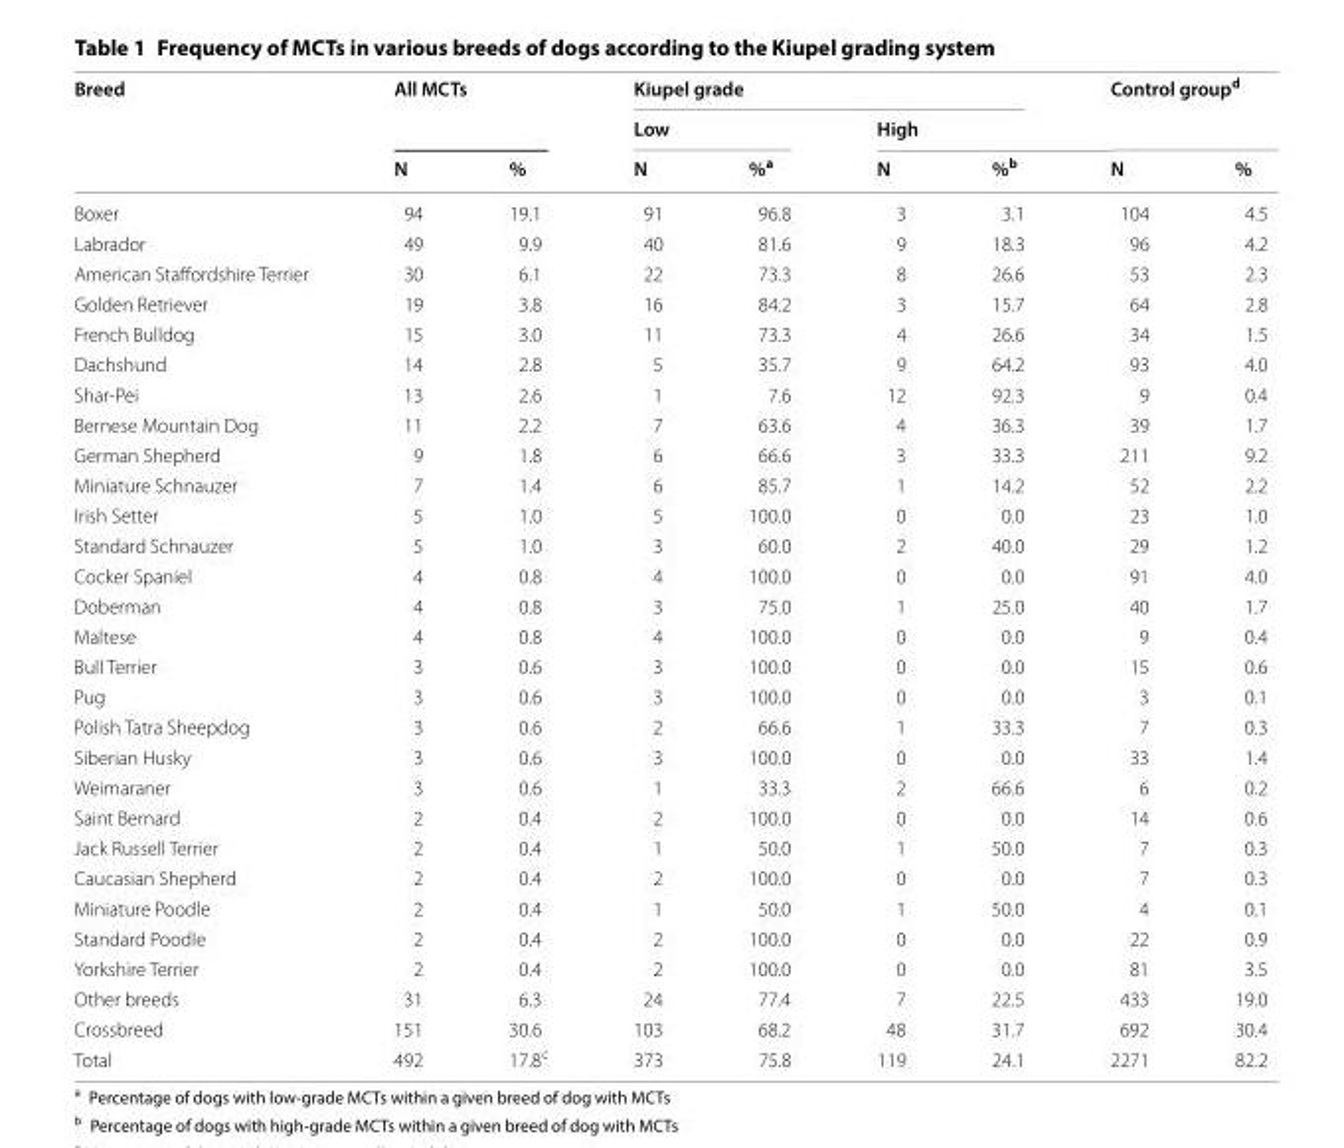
<table><thead><tr><td rowspan="3">Breed</td><td rowspan="2" colspan="2">All MCTs</td><td colspan="4">Kiupel grade</td><td rowspan="2" colspan="2">Control group<sup>d</sup></td></tr><tr><td colspan="2">Low</td><td colspan="2">High</td></tr><tr><td>N</td><td>%</td><td>N</td><td>%<sup>a</sup></td><td>N</td><td>%<sup>b</sup></td><td>N</td><td>%</td></tr></thead><tbody><tr><td>Boxer</td><td>94</td><td>19.1</td><td>91</td><td>96.8</td><td>3</td><td>3.1</td><td>104</td><td>4.5</td></tr><tr><td>Labrador</td><td>49</td><td>9.9</td><td>40</td><td>81.6</td><td>9</td><td>18.3</td><td>96</td><td>4.2</td></tr><tr><td>American Staffordshire Terrier</td><td>30</td><td>6.1</td><td>22</td><td>73.3</td><td>8</td><td>26.6</td><td>53</td><td>2.3</td></tr><tr><td>Golden Retriever</td><td>19</td><td>3.8</td><td>16</td><td>84.2</td><td>3</td><td>15.7</td><td>64</td><td>2.8</td></tr><tr><td>French Bulldog</td><td>15</td><td>3.0</td><td>11</td><td>73.3</td><td>4</td><td>26.6</td><td>34</td><td>1.5</td></tr><tr><td>Dachshund</td><td>14</td><td>2.8</td><td>5</td><td>35.7</td><td>9</td><td>64.2</td><td>93</td><td>4.0</td></tr><tr><td>Shar-Pei</td><td>13</td><td>2.6</td><td>1</td><td>7.6</td><td>12</td><td>92.3</td><td>9</td><td>0.4</td></tr><tr><td>Bernese Mountain Dog</td><td>11</td><td>2.2</td><td>7</td><td>63.6</td><td>4</td><td>36.3</td><td>39</td><td>1.7</td></tr><tr><td>German Shepherd</td><td>9</td><td>1.8</td><td>6</td><td>66.6</td><td>3</td><td>33.3</td><td>211</td><td>9.2</td></tr><tr><td>Miniature Schnauzer</td><td>7</td><td>1.4</td><td>6</td><td>85.7</td><td>1</td><td>14.2</td><td>52</td><td>2.2</td></tr><tr><td>Irish Setter</td><td>5</td><td>1.0</td><td>5</td><td>100.0</td><td>0</td><td>0.0</td><td>23</td><td>1.0</td></tr><tr><td>Standard Schnauzer</td><td>5</td><td>1.0</td><td>3</td><td>60.0</td><td>2</td><td>40.0</td><td>29</td><td>1.2</td></tr><tr><td>Cocker Spaniel</td><td>4</td><td>0.8</td><td>4</td><td>100.0</td><td>0</td><td>0.0</td><td>91</td><td>4.0</td></tr><tr><td>Doberman</td><td>4</td><td>0.8</td><td>3</td><td>75.0</td><td>1</td><td>25.0</td><td>40</td><td>1.7</td></tr><tr><td>Maltese</td><td>4</td><td>0.8</td><td>4</td><td>100.0</td><td>0</td><td>0.0</td><td>9</td><td>0.4</td></tr><tr><td>Bull Terrier</td><td>3</td><td>0.6</td><td>3</td><td>100.0</td><td>0</td><td>0.0</td><td>15</td><td>0.6</td></tr><tr><td>Pug</td><td>3</td><td>0.6</td><td>3</td><td>100.0</td><td>0</td><td>0.0</td><td>3</td><td>0.1</td></tr><tr><td>Polish Tatra Sheepdog</td><td>3</td><td>0.6</td><td>2</td><td>66.6</td><td>1</td><td>33.3</td><td>7</td><td>0.3</td></tr><tr><td>Siberian Husky</td><td>3</td><td>0.6</td><td>3</td><td>100.0</td><td>0</td><td>0.0</td><td>33</td><td>1.4</td></tr><tr><td>Weimaraner</td><td>3</td><td>0.6</td><td>1</td><td>33.3</td><td>2</td><td>66.6</td><td>6</td><td>0.2</td></tr><tr><td>Saint Bernard</td><td>2</td><td>0.4</td><td>2</td><td>100.0</td><td>0</td><td>0.0</td><td>14</td><td>0.6</td></tr><tr><td>Jack Russell Terrier</td><td>2</td><td>0.4</td><td>1</td><td>50.0</td><td>1</td><td>50.0</td><td>7</td><td>0.3</td></tr><tr><td>Caucasian Shepherd</td><td>2</td><td>0.4</td><td>2</td><td>100.0</td><td>0</td><td>0.0</td><td>7</td><td>0.3</td></tr><tr><td>Miniature Poodle</td><td>2</td><td>0.4</td><td>1</td><td>50.0</td><td>1</td><td>50.0</td><td>4</td><td>0.1</td></tr><tr><td>Standard Poodle</td><td>2</td><td>0.4</td><td>2</td><td>100.0</td><td>0</td><td>0.0</td><td>22</td><td>0.9</td></tr><tr><td>Yorkshire Terrier</td><td>2</td><td>0.4</td><td>2</td><td>100.0</td><td>0</td><td>0.0</td><td>81</td><td>3.5</td></tr><tr><td>Other breeds</td><td>31</td><td>6.3</td><td>24</td><td>77.4</td><td>7</td><td>22.5</td><td>433</td><td>19.0</td></tr><tr><td>Crossbreed</td><td>151</td><td>30.6</td><td>103</td><td>68.2</td><td>48</td><td>31.7</td><td>692</td><td>30.4</td></tr><tr><td>Total</td><td>492</td><td>17.8<sup>c</sup></td><td>373</td><td>75.8</td><td>119</td><td>24.1</td><td>2271</td><td>82.2</td></tr></tbody></table>